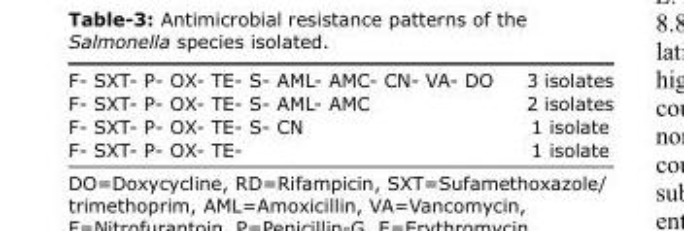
<table><tbody><tr><td>F- SXT- P- OX- TE- S- AML- AMC- CN- VA- DO</td><td>3 isolates</td></tr><tr><td>F- SXT- P- OX- TE- S- AML- AMC</td><td>2 isolates</td></tr><tr><td>F- SXT- P- OX- TE- S- CN</td><td>1 isolate</td></tr><tr><td>F- SXT- P- OX- TE-</td><td>1 isolate</td></tr></tbody></table>